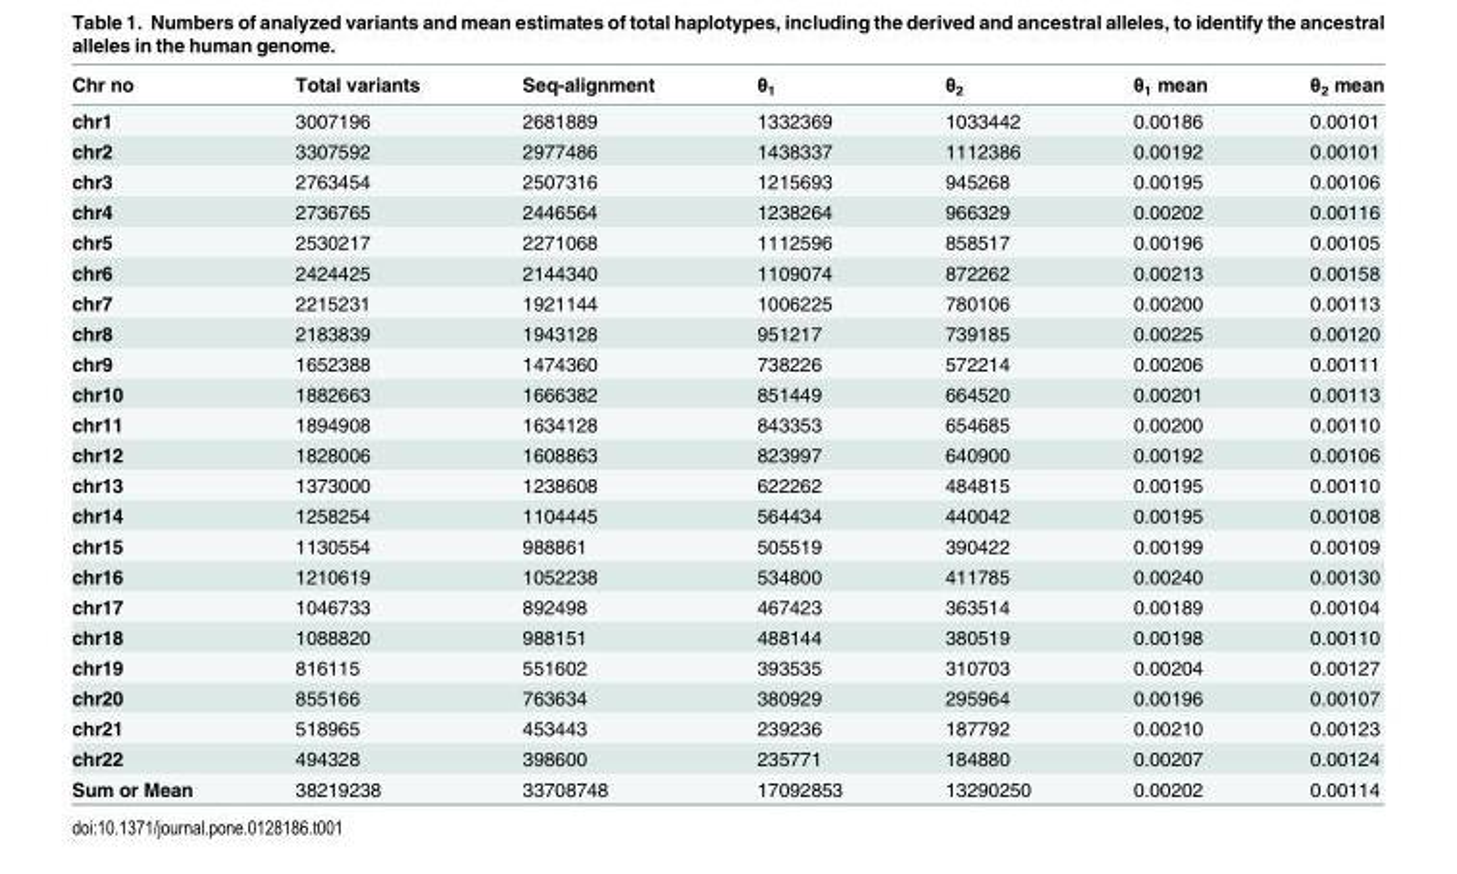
<table><thead><tr><td>Chr no</td><td>Total variants</td><td>Seq-alignment</td><td>θ<sub>1</sub></td><td>θ<sub>2</sub></td><td>θ<sub>1</sub> mean</td><td>θ<sub>2</sub> mean</td></tr></thead><tbody><tr><td>chr1</td><td>3007196</td><td>2681889</td><td>1332369</td><td>1033442</td><td>0.00186</td><td>0.00101</td></tr><tr><td>chr2</td><td>3307592</td><td>2977486</td><td>1438337</td><td>1112386</td><td>0.00192</td><td>0.00101</td></tr><tr><td>chr3</td><td>2763454</td><td>2507316</td><td>1215693</td><td>945268</td><td>0.00195</td><td>0.00106</td></tr><tr><td>chr4</td><td>2736765</td><td>2446564</td><td>1238264</td><td>966329</td><td>0.00202</td><td>0.00116</td></tr><tr><td>chr5</td><td>2530217</td><td>2271068</td><td>1112596</td><td>858517</td><td>0.00196</td><td>0.00105</td></tr><tr><td>chr6</td><td>2424425</td><td>2144340</td><td>1109074</td><td>872262</td><td>0.00213</td><td>0.00158</td></tr><tr><td>chr7</td><td>2215231</td><td>1921144</td><td>1006225</td><td>780106</td><td>0.00200</td><td>0.00113</td></tr><tr><td>chr8</td><td>2183839</td><td>1943128</td><td>951217</td><td>739185</td><td>0.00225</td><td>0.00120</td></tr><tr><td>chr9</td><td>1652388</td><td>1474360</td><td>738226</td><td>572214</td><td>0.00206</td><td>0.00111</td></tr><tr><td>chr10</td><td>1882663</td><td>1666382</td><td>851449</td><td>664520</td><td>0.00201</td><td>0.00113</td></tr><tr><td>chr11</td><td>1894908</td><td>1634128</td><td>843353</td><td>654685</td><td>0.00200</td><td>0.00110</td></tr><tr><td>chr12</td><td>1828006</td><td>1608863</td><td>823997</td><td>640900</td><td>0.00192</td><td>0.00106</td></tr><tr><td>chr13</td><td>1373000</td><td>1238608</td><td>622262</td><td>484815</td><td>0.00195</td><td>0.00110</td></tr><tr><td>chr14</td><td>1258254</td><td>1104445</td><td>564434</td><td>440042</td><td>0.00195</td><td>0.00108</td></tr><tr><td>chr15</td><td>1130554</td><td>988861</td><td>505519</td><td>390422</td><td>0.00199</td><td>0.00109</td></tr><tr><td>chr16</td><td>1210619</td><td>1052238</td><td>534800</td><td>411785</td><td>0.00240</td><td>0.00130</td></tr><tr><td>chr17</td><td>1046733</td><td>892498</td><td>467423</td><td>363514</td><td>0.00189</td><td>0.00104</td></tr><tr><td>chr18</td><td>1088820</td><td>988151</td><td>488144</td><td>380519</td><td>0.00198</td><td>0.00110</td></tr><tr><td>chr19</td><td>816115</td><td>551602</td><td>393535</td><td>310703</td><td>0.00204</td><td>0.00127</td></tr><tr><td>chr20</td><td>855166</td><td>763634</td><td>380929</td><td>295964</td><td>0.00196</td><td>0.00107</td></tr><tr><td>chr21</td><td>518965</td><td>453443</td><td>239236</td><td>187792</td><td>0.00210</td><td>0.00123</td></tr><tr><td>chr22</td><td>494328</td><td>398600</td><td>235771</td><td>184880</td><td>0.00207</td><td>0.00124</td></tr><tr><td>Sum or Mean</td><td>38219238</td><td>33708748</td><td>17092853</td><td>13290250</td><td>0.00202</td><td>0.00114</td></tr></tbody></table>